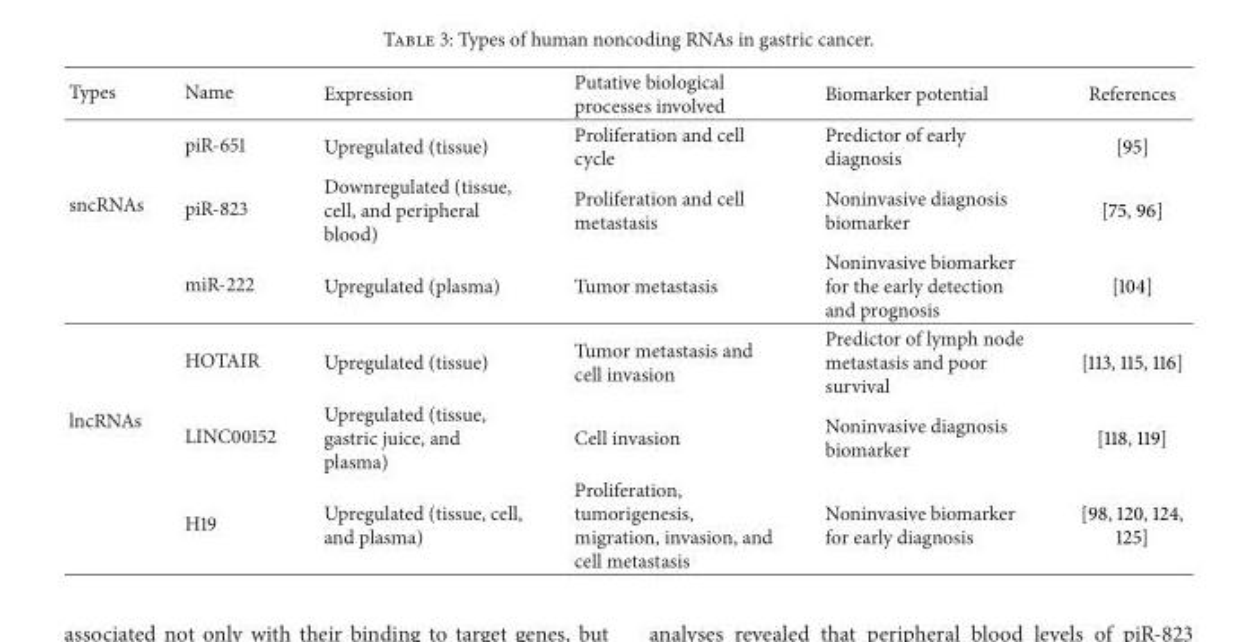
<table><thead><tr><td>Types</td><td>Name</td><td>Expression</td><td>Putative biological processes involved</td><td>Biomarker potential</td><td>References</td></tr></thead><tbody><tr><td rowspan="3">sncRNAs</td><td>piR-651</td><td>Upregulated (tissue)</td><td>Proliferation and cell cycle</td><td>Predictor of early diagnosis</td><td>[95]</td></tr><tr><td>piR-823</td><td>Downregulated (tissue, cell, and peripheral blood)</td><td>Proliferation and cell metastasis</td><td>Noninvasive diagnosis biomarker</td><td>[75, 96]</td></tr><tr><td>miR-222</td><td>Upregulated (plasma)</td><td>Tumor metastasis</td><td>Noninvasive biomarker for the early detection and prognosis</td><td>[104]</td></tr><tr><td rowspan="3">lncRNAs</td><td>HOTAIR</td><td>Upregulated (tissue)</td><td>Tumor metastasis and cell invasion</td><td>Predictor of lymph node metastasis and poor survival</td><td>[113, 115, 116]</td></tr><tr><td>LINC00152</td><td>Upregulated (tissue, gastric juice, and plasma)</td><td>Cell invasion</td><td>Noninvasive diagnosis biomarker</td><td>[118, 119]</td></tr><tr><td>H19</td><td>Upregulated (tissue, cell, and plasma)</td><td>Proliferation, tumorigenesis, migration, invasion, and cell metastasis</td><td>Noninvasive biomarker for early diagnosis</td><td>[98, 120, 124, 125]</td></tr></tbody></table>